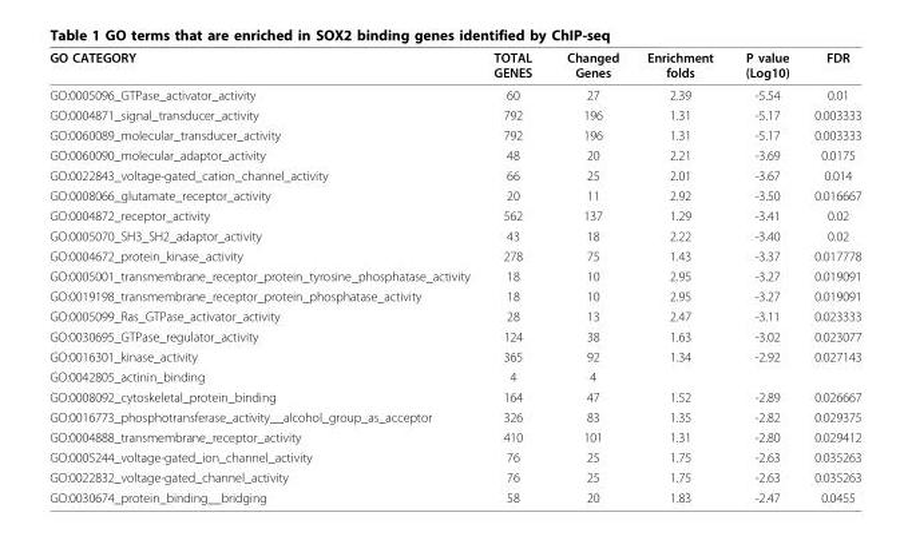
<table><thead><tr><td>GO CATEGORY</td><td>TOTAL GENES</td><td>Changed Genes</td><td>Enrichment folds</td><td>P value (Log10)</td><td>FDR</td></tr></thead><tbody><tr><td>GO:0005096_GTPase_activator_activity</td><td>60</td><td>27</td><td>2.39</td><td>-5.54</td><td>0.01</td></tr><tr><td>GO:0004871_signal_transducer_activity</td><td>792</td><td>196</td><td>1.31</td><td>-5.17</td><td>0.003333</td></tr><tr><td>GO:0060089_molecular_transducer_activity</td><td>792</td><td>196</td><td>1.31</td><td>-5.17</td><td>0.003333</td></tr><tr><td>GO:0060090_molecular_adaptor_activity</td><td>48</td><td>20</td><td>2.21</td><td>-3.69</td><td>0.0175</td></tr><tr><td>GO:0022843_voltage-gated_cation_channel_activity</td><td>66</td><td>25</td><td>2.01</td><td>-3.67</td><td>0.014</td></tr><tr><td>GO:0008066_glutamate_receptor_activity</td><td>20</td><td>11</td><td>2.92</td><td>-3.50</td><td>0.016667</td></tr><tr><td>GO:0004872_receptor_activity</td><td>562</td><td>137</td><td>1.29</td><td>-3.41</td><td>0.02</td></tr><tr><td>GO:0005070_SH3_SH2_adaptor_activity</td><td>43</td><td>18</td><td>2.22</td><td>-3.40</td><td>0.02</td></tr><tr><td>GO:0004672_protein_kinase_activity</td><td>278</td><td>75</td><td>1.43</td><td>-3.37</td><td>0.017778</td></tr><tr><td>GO:0005001_transmembrane_receptor_protein_tyrosine_phosphatase_activity</td><td>18</td><td>10</td><td>2.95</td><td>-3.27</td><td>0.019091</td></tr><tr><td>GO:0019198_transmembrane_receptor_protein_phosphatase_activity</td><td>18</td><td>10</td><td>2.95</td><td>-3.27</td><td>0.019091</td></tr><tr><td>GO:0005099_Ras_GTPase_activator_activity</td><td>28</td><td>13</td><td>2.47</td><td>-3.11</td><td>0.023333</td></tr><tr><td>GO:0030695_GTPase_regulator_activity</td><td>124</td><td>38</td><td>1.63</td><td>-3.02</td><td>0.023077</td></tr><tr><td>GO:0016301_kinase_activity</td><td>365</td><td>92</td><td>1.34</td><td>-2.92</td><td>0.027143</td></tr><tr><td>GO:0042805_actinin_binding</td><td>4</td><td>4</td><td></td><td></td><td></td></tr><tr><td>GO:0008092_cytoskeletal_protein_binding</td><td>164</td><td>47</td><td>1.52</td><td>-2.89</td><td>0.026667</td></tr><tr><td>GO:0016773_phosphotransferase_activity__alcohol_group_as_acceptor</td><td>326</td><td>83</td><td>1.35</td><td>-2.82</td><td>0.029375</td></tr><tr><td>GO:0004888_transmembrane_receptor_activity</td><td>410</td><td>101</td><td>1.31</td><td>-2.80</td><td>0.029412</td></tr><tr><td>GO:0005244_voltage-gated_ion_channel_activity</td><td>76</td><td>25</td><td>1.75</td><td>-2.63</td><td>0.035263</td></tr><tr><td>GO:0022832_voltage-gated_channel_activity</td><td>76</td><td>25</td><td>1.75</td><td>-2.63</td><td>0.035263</td></tr><tr><td>GO:0030674_protein_binding__bridging</td><td>58</td><td>20</td><td>1.83</td><td>-2.47</td><td>0.0455</td></tr></tbody></table>